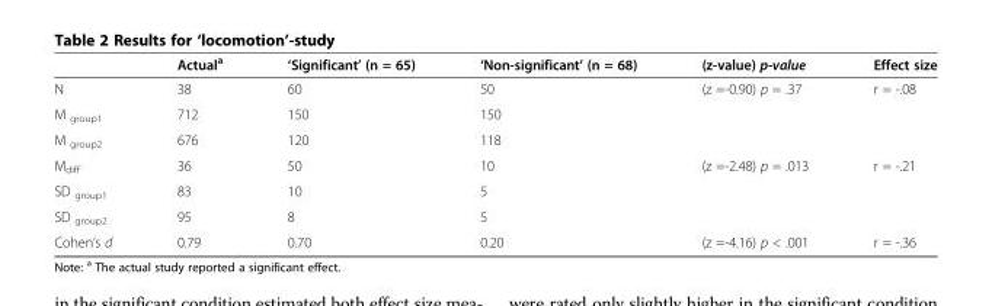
<table><thead><tr><td></td><td>Actual<sup>a</sup></td><td>‘Significant’ (n = 65)</td><td>‘Non-significant’ (n = 68)</td><td>(z-value) p-value</td><td>Effect size</td></tr></thead><tbody><tr><td>N</td><td>38</td><td>60</td><td>50</td><td>(z =-0.90) p = .37</td><td>r = -.08</td></tr><tr><td>M <sub>group1</sub></td><td>712</td><td>150</td><td>150</td><td></td><td></td></tr><tr><td>M <sub>group2</sub></td><td>676</td><td>120</td><td>118</td><td></td><td></td></tr><tr><td>M<sub>diff</sub></td><td>36</td><td>50</td><td>10</td><td>(z =-2.48) p = .013</td><td>r = -.21</td></tr><tr><td>SD <sub>group1</sub></td><td>83</td><td>10</td><td>5</td><td></td><td></td></tr><tr><td>SD <sub>group2</sub></td><td>95</td><td>8</td><td>5</td><td></td><td></td></tr><tr><td>Cohen’s d</td><td>0.79</td><td>0.70</td><td>0.20</td><td>(z =-4.16) p &lt; .001</td><td>r = -.36</td></tr></tbody></table>